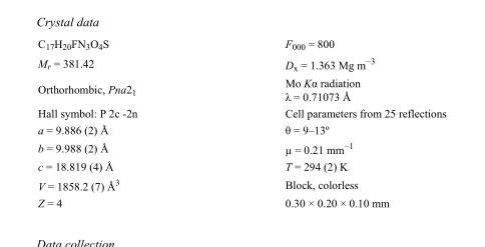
<table><tbody><tr><td>C<sub>17</sub>H<sub>20</sub>FN<sub>3</sub>O<sub>4</sub>S</td><td>F<sub>000</sub> = 800</td></tr><tr><td>M<sub>r</sub> = 381.42</td><td>D<sub>x</sub> = 1.363 Mg m<sup>−3</sup></td></tr><tr><td>Orthorhombic, Pna2<sub>1</sub></td><td>Mo Kα radiation λ = 0.71073 Å</td></tr><tr><td>Hall symbol: P 2c -2n</td><td>Cell parameters from 25 reflections</td></tr><tr><td>a = 9.886 (2) Å</td><td>θ = 9–13º</td></tr><tr><td>b = 9.988 (2) Å</td><td>µ = 0.21 mm<sup>−1</sup></td></tr><tr><td>c = 18.819 (4) Å</td><td>T = 294 (2) K</td></tr><tr><td>V = 1858.2 (7) Å<sup>3</sup></td><td>Block, colorless</td></tr><tr><td>Z = 4</td><td>0.30 × 0.20 × 0.10 mm</td></tr></tbody></table>